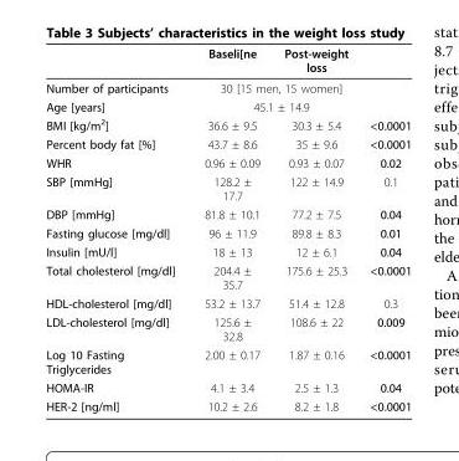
<table><thead><tr><td></td><td>Baseli[ne</td><td>Post-weight loss</td><td></td></tr></thead><tbody><tr><td>Number of participants</td><td colspan="2">30 [15 men, 15 women]</td><td></td></tr><tr><td>Age [years]</td><td colspan="2">45.1 ± 14.9</td><td></td></tr><tr><td>BMI [kg/m<sup>2</sup>]</td><td>36.6 ± 9.5</td><td>30.3 ± 5.4</td><td>&lt;0.0001</td></tr><tr><td>Percent body fat [%]</td><td>43.7 ± 8.6</td><td>35 ± 9.6</td><td>&lt;0.0001</td></tr><tr><td>WHR</td><td>0.96 ± 0.09</td><td>0.93 ± 0.07</td><td>0.02</td></tr><tr><td>SBP [mmHg]</td><td>128.2 ± 17.7</td><td>122 ± 14.9</td><td>0.1</td></tr><tr><td>DBP [mmHg]</td><td>81.8 ± 10.1</td><td>77.2 ± 7.5</td><td>0.04</td></tr><tr><td>Fasting glucose [mg/dl]</td><td>96 ± 11.9</td><td>89.8 ± 8.3</td><td>0.01</td></tr><tr><td>Insulin [mU/l]</td><td>18 ± 13</td><td>12 ± 6.1</td><td>0.04</td></tr><tr><td>Total cholesterol [mg/dl]</td><td>204.4 ± 35.7</td><td>175.6 ± 25.3</td><td>&lt;0.0001</td></tr><tr><td>HDL-cholesterol [mg/dl]</td><td>53.2 ± 13.7</td><td>51.4 ± 12.8</td><td>0.3</td></tr><tr><td>LDL-cholesterol [mg/dl]</td><td>125.6 ± 32.8</td><td>108.6 ± 22</td><td>0.009</td></tr><tr><td>Log 10 Fasting Triglycerides</td><td>2.00 ± 0.17</td><td>1.87 ± 0.16</td><td>&lt;0.0001</td></tr><tr><td>HOMA-IR</td><td>4.1 ± 3.4</td><td>2.5 ± 1.3</td><td>0.04</td></tr><tr><td>HER-2 [ng/ml]</td><td>10.2 ± 2.6</td><td>8.2 ± 1.8</td><td>&lt;0.0001</td></tr></tbody></table>